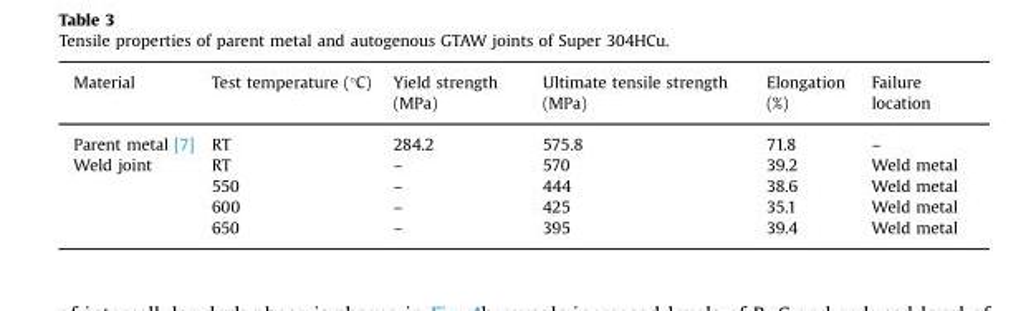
<table><thead><tr><td>Material</td><td>Test temperature (°C)</td><td>Yield strength (MPa)</td><td>Ultimate tensile strength (MPa)</td><td>Elongation (%)</td><td>Failure location</td></tr></thead><tbody><tr><td>Parent metal [7]</td><td>RT</td><td>284.2</td><td>575.8</td><td>71.8</td><td>–</td></tr><tr><td rowspan="4">Weld joint</td><td>RT</td><td>–</td><td>570</td><td>39.2</td><td>Weld metal</td></tr><tr><td>550</td><td>–</td><td>444</td><td>38.6</td><td>Weld metal</td></tr><tr><td>600</td><td>–</td><td>425</td><td>35.1</td><td>Weld metal</td></tr><tr><td>650</td><td>–</td><td>395</td><td>39.4</td><td>Weld metal</td></tr></tbody></table>